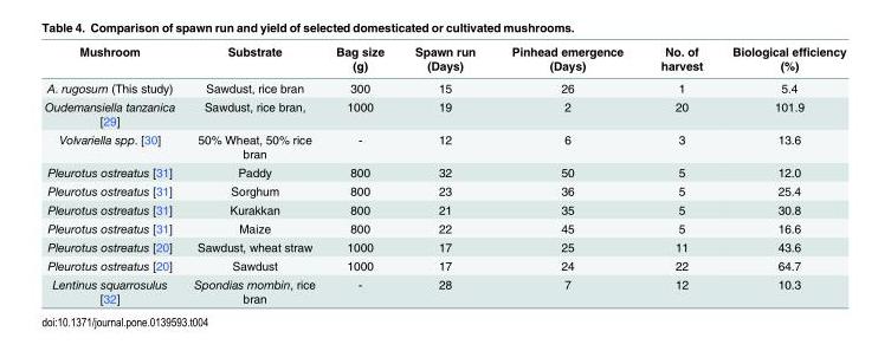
<table><thead><tr><td>Mushroom</td><td>Substrate</td><td>Bag size (g)</td><td>Spawn run (Days)</td><td>Pinhead emergence (Days)</td><td>No. of harvest</td><td>Biological efficiency (%)</td></tr></thead><tbody><tr><td>A. rugosum (This study)</td><td>Sawdust, rice bran</td><td>300</td><td>15</td><td>26</td><td>1</td><td>5.4</td></tr><tr><td>Oudemansiella tanzanica [29]</td><td>Sawdust, rice bran,</td><td>1000</td><td>19</td><td>2</td><td>20</td><td>101.9</td></tr><tr><td>Volvariella spp. [30]</td><td>50% Wheat, 50% rice bran</td><td>-</td><td>12</td><td>6</td><td>3</td><td>13.6</td></tr><tr><td>Pleurotus ostreatus [31]</td><td>Paddy</td><td>800</td><td>32</td><td>50</td><td>5</td><td>12.0</td></tr><tr><td>Pleurotus ostreatus [31]</td><td>Sorghum</td><td>800</td><td>23</td><td>36</td><td>5</td><td>25.4</td></tr><tr><td>Pleurotus ostreatus [31]</td><td>Kurakkan</td><td>800</td><td>21</td><td>35</td><td>5</td><td>30.8</td></tr><tr><td>Pleurotus ostreatus [31]</td><td>Maize</td><td>800</td><td>22</td><td>45</td><td>5</td><td>16.6</td></tr><tr><td>Pleurotus ostreatus [20]</td><td>Sawdust, wheat straw</td><td>1000</td><td>17</td><td>25</td><td>11</td><td>43.6</td></tr><tr><td>Pleurotus ostreatus [20]</td><td>Sawdust</td><td>1000</td><td>17</td><td>24</td><td>22</td><td>64.7</td></tr><tr><td>Lentinus squarrosulus [32]</td><td>Spondias mombin, rice bran</td><td>-</td><td>28</td><td>7</td><td>12</td><td>10.3</td></tr></tbody></table>